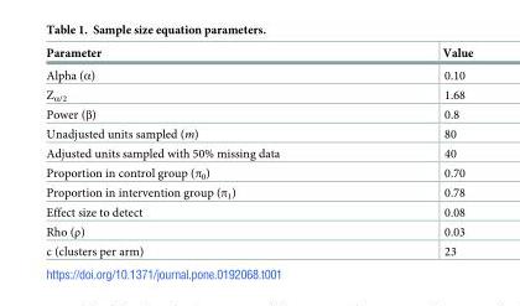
<table><thead><tr><td>Parameter</td><td>Value</td></tr></thead><tbody><tr><td>Alpha (α)</td><td>0.10</td></tr><tr><td>Z<sub>α/2</sub></td><td>1.68</td></tr><tr><td>Power (β)</td><td>0.8</td></tr><tr><td>Unadjusted units sampled (m)</td><td>80</td></tr><tr><td>Adjusted units sampled with 50% missing data</td><td>40</td></tr><tr><td>Proportion in control group (π<sub>0</sub>)</td><td>0.70</td></tr><tr><td>Proportion in intervention group (π<sub>1</sub>)</td><td>0.78</td></tr><tr><td>Effect size to detect</td><td>0.08</td></tr><tr><td>Rho (ρ)</td><td>0.03</td></tr><tr><td>c (clusters per arm)</td><td>23</td></tr></tbody></table>